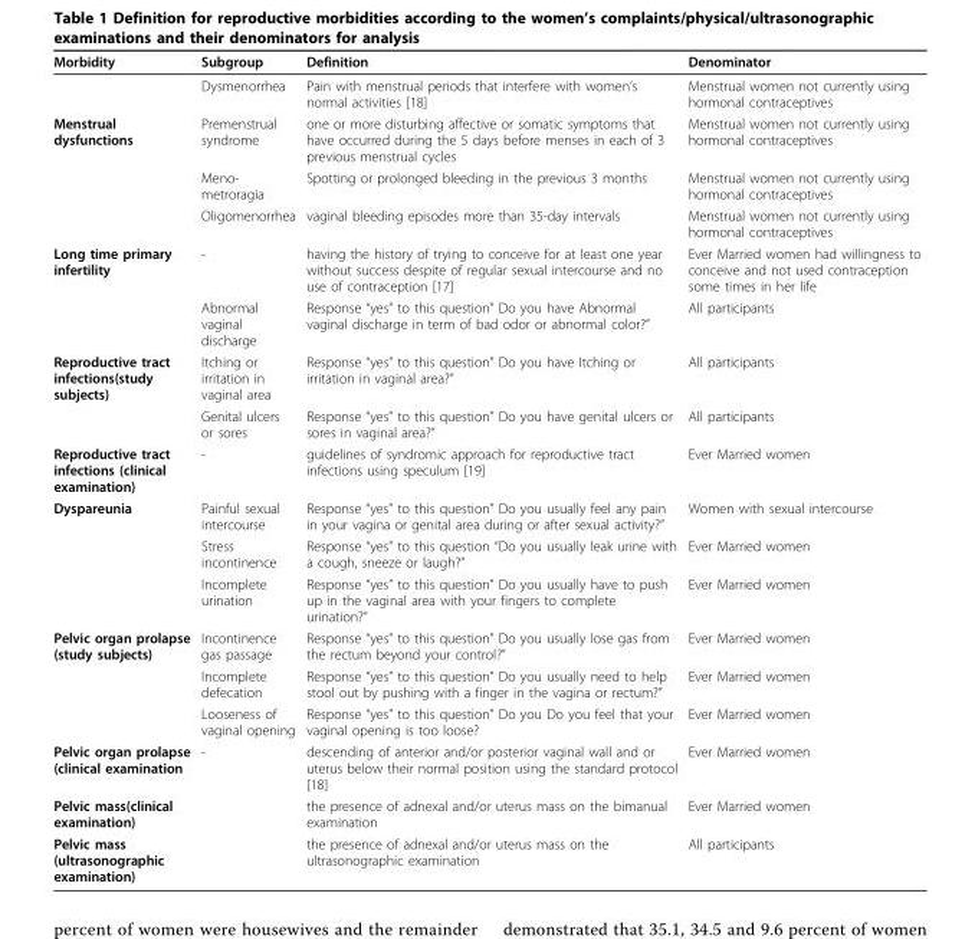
<table><thead><tr><td>Morbidity</td><td>Subgroup</td><td>Definition</td><td>Denominator</td></tr></thead><tbody><tr><td></td><td>Dysmenorrhea</td><td>Pain with menstrual periods that interfere with women’s normal activities [18]</td><td>Menstrual women not currently using hormonal contraceptives</td></tr><tr><td rowspan="3">Menstrual dysfunctions</td><td>Premenstrual syndrome</td><td>one or more disturbing affective or somatic symptoms that have occurred during the 5 days before menses in each of 3 previous menstrual cycles</td><td>Menstrual women not currently using hormonal contraceptives</td></tr><tr><td>Meno- metroragia</td><td>Spotting or prolonged bleeding in the previous 3 months</td><td>Menstrual women not currently using hormonal contraceptives</td></tr><tr><td>Oligomenorrhea</td><td>vaginal bleeding episodes more than 35-day intervals</td><td>Menstrual women not currently using hormonal contraceptives</td></tr><tr><td rowspan="2">Long time primary infertility</td><td>-</td><td>having the history of trying to conceive for at least one year without success despite of regular sexual intercourse and no use of contraception [17]</td><td>Ever Married women had willingness to conceive and not used contraception some times in her life</td></tr><tr><td>Abnormal vaginal discharge</td><td>Response “yes” to this question” Do you have Abnormal vaginal discharge in term of bad odor or abnormal color?”</td><td>All participants</td></tr><tr><td rowspan="2">Reproductive tract infections(study subjects)</td><td>Itching or irritation in vaginal area</td><td>Response “yes” to this question” Do you have Itching or irritation in vaginal area?”</td><td>All participants</td></tr><tr><td>Genital ulcers or sores</td><td>Response “yes” to this question” Do you have genital ulcers or sores in vaginal area?”</td><td>All participants</td></tr><tr><td>Reproductive tract infections (clinical examination)</td><td>-</td><td>guidelines of syndromic approach for reproductive tract infections using speculum [19]</td><td>Ever Married women</td></tr><tr><td rowspan="3">Dyspareunia</td><td>Painful sexual intercourse</td><td>Response “yes” to this question” Do you usually feel any pain in your vagina or genital area during or after sexual activity?”</td><td>Women with sexual intercourse</td></tr><tr><td>Stress incontinence</td><td>Response “yes” to this question “Do you usually leak urine with a cough, sneeze or laugh?”</td><td>Ever Married women</td></tr><tr><td>Incomplete urination</td><td>Response “yes” to this question” Do you usually have to push up in the vaginal area with your fingers to complete urination?”</td><td>Ever Married women</td></tr><tr><td rowspan="3">Pelvic organ prolapse (study subjects)</td><td>Incontinence gas passage</td><td>Response “yes” to this question” Do you usually lose gas from the rectum beyond your control?”</td><td>Ever Married women</td></tr><tr><td>Incomplete defecation</td><td>Response “yes” to this question” Do you usually need to help stool out by pushing with a finger in the vagina or rectum?”</td><td>Ever Married women</td></tr><tr><td>Looseness of vaginal opening</td><td>Response “yes” to this question” Do you Do you feel that your vaginal opening is too loose?</td><td>Ever Married women</td></tr><tr><td>Pelvic organ prolapse (clinical examination</td><td>-</td><td>descending of anterior and/or posterior vaginal wall and or uterus below their normal position using the standard protocol [18]</td><td>Ever Married women</td></tr><tr><td>Pelvic mass(clinical examination)</td><td></td><td>the presence of adnexal and/or uterus mass on the bimanual examination</td><td>Ever Married women</td></tr><tr><td>Pelvic mass (ultrasonographic examination)</td><td></td><td>the presence of adnexal and/or uterus mass on the ultrasonographic examination</td><td>All participants</td></tr></tbody></table>